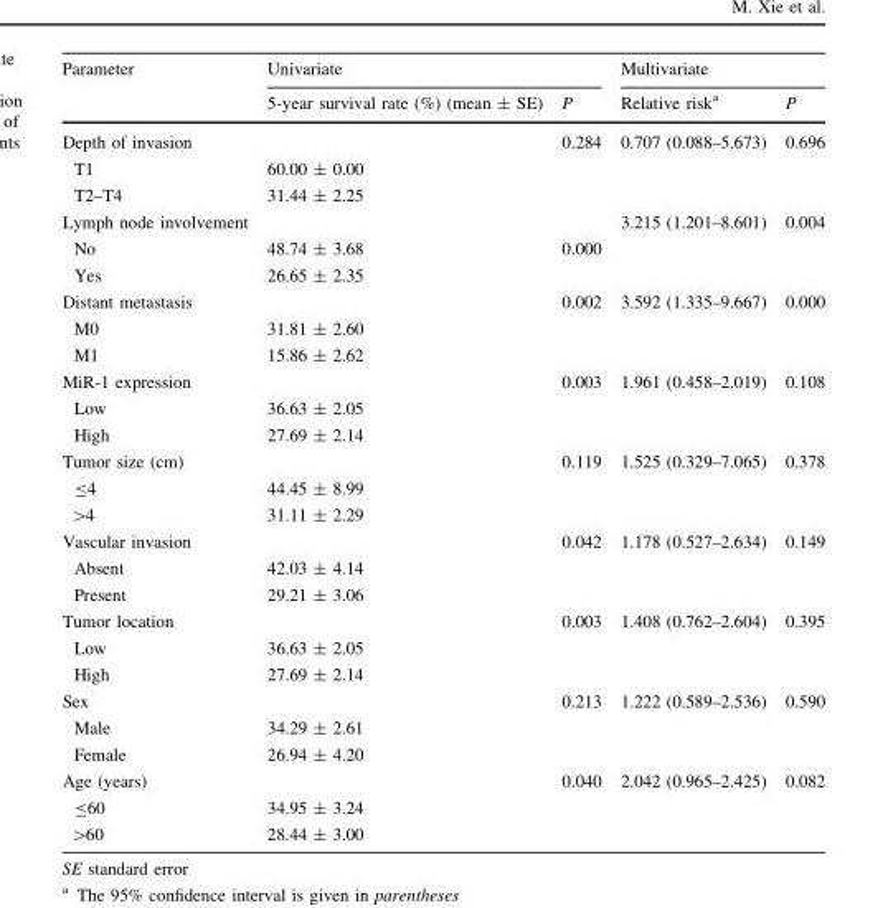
<table><thead><tr><td rowspan="2">Parameter</td><td colspan="2">Univariate</td><td colspan="2">Multivariate</td></tr><tr><td>5-year survival rate (%) (mean ± SE)</td><td>P</td><td>Relative risk<sup>a</sup></td><td>P</td></tr></thead><tbody><tr><td>Depth of invasion</td><td></td><td>0.284</td><td rowspan="3">0.707 (0.088–5.673)</td><td rowspan="3">0.696</td></tr><tr><td>T1</td><td>60.00 ± 0.00</td><td></td></tr><tr><td>T2–T4</td><td>31.44 ± 2.25</td><td></td></tr><tr><td colspan="3">Lymph node involvement</td><td rowspan="3">3.215 (1.201–8.601)</td><td rowspan="3">0.004</td></tr><tr><td>No</td><td>48.74 ± 3.68</td><td>0.000</td></tr><tr><td>Yes</td><td>26.65 ± 2.35</td><td></td></tr><tr><td>Distant metastasis</td><td></td><td>0.002</td><td rowspan="3">3.592 (1.335–9.667)</td><td rowspan="3">0.000</td></tr><tr><td>M0</td><td>31.81 ± 2.60</td><td></td></tr><tr><td>M1</td><td>15.86 ± 2.62</td><td></td></tr><tr><td>MiR-1 expression</td><td></td><td>0.003</td><td rowspan="3">1.961 (0.458–2.019)</td><td rowspan="3">0.108</td></tr><tr><td>Low</td><td>36.63 ± 2.05</td><td></td></tr><tr><td>High</td><td>27.69 ± 2.14</td><td></td></tr><tr><td>Tumor size (cm)</td><td></td><td>0.119</td><td rowspan="3">1.525 (0.329–7.065)</td><td rowspan="3">0.378</td></tr><tr><td>≤4</td><td>44.45 ± 8.99</td><td></td></tr><tr><td>&gt;4</td><td>31.11 ± 2.29</td><td></td></tr><tr><td>Vascular invasion</td><td></td><td>0.042</td><td rowspan="3">1.178 (0.527–2.634)</td><td rowspan="3">0.149</td></tr><tr><td>Absent</td><td>42.03 ± 4.14</td><td></td></tr><tr><td>Present</td><td>29.21 ± 3.06</td><td></td></tr><tr><td>Tumor location</td><td></td><td>0.003</td><td rowspan="3">1.408 (0.762–2.604)</td><td rowspan="3">0.395</td></tr><tr><td>Low</td><td>36.63 ± 2.05</td><td></td></tr><tr><td>High</td><td>27.69 ± 2.14</td><td></td></tr><tr><td>Sex</td><td></td><td>0.213</td><td rowspan="3">1.222 (0.589–2.536)</td><td rowspan="3">0.590</td></tr><tr><td>Male</td><td>34.29 ± 2.61</td><td></td></tr><tr><td>Female</td><td>26.94 ± 4.20</td><td></td></tr><tr><td>Age (years)</td><td></td><td>0.040</td><td rowspan="3">2.042 (0.965–2.425)</td><td rowspan="3">0.082</td></tr><tr><td>≤60</td><td>34.95 ± 3.24</td><td></td></tr><tr><td>&gt;60</td><td>28.44 ± 3.00</td><td></td></tr></tbody></table>